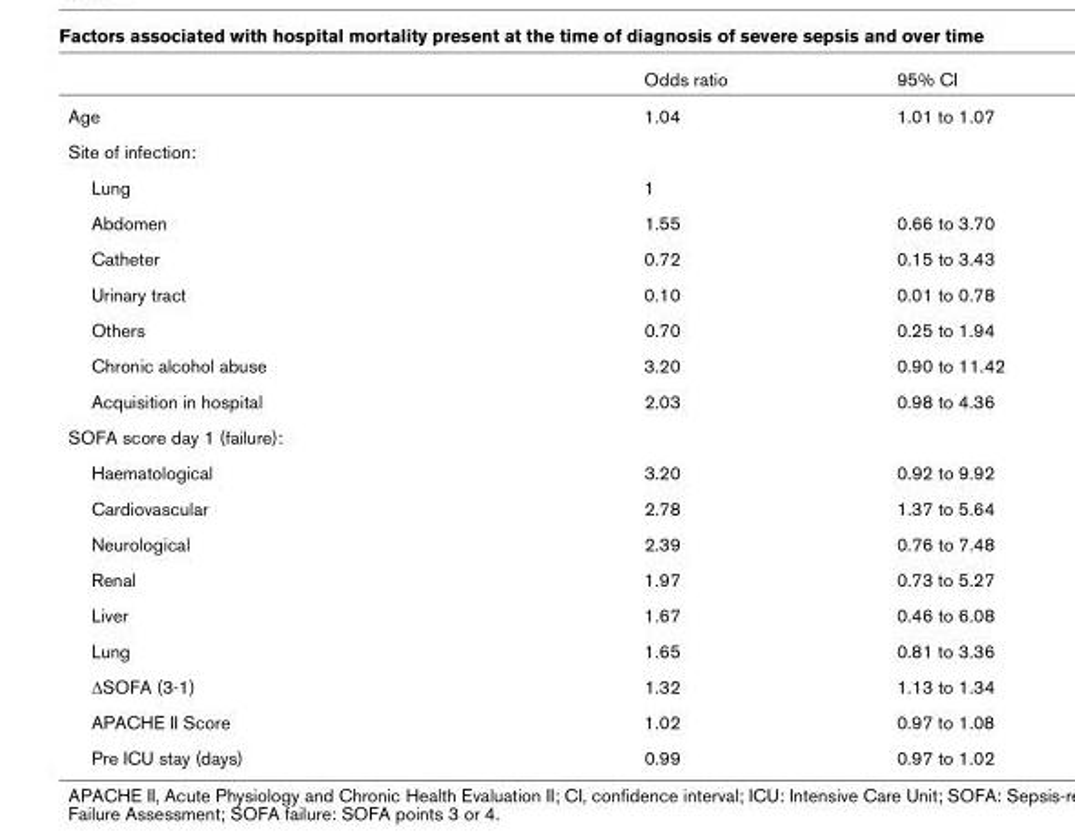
<table><thead><tr><td></td><td>Odds ratio</td><td>95% CI</td></tr></thead><tbody><tr><td>Age</td><td>1.04</td><td>1.01 to 1.07</td></tr><tr><td colspan="3">Site of infection:</td></tr><tr><td>Lung</td><td>1</td><td></td></tr><tr><td>Abdomen</td><td>1.55</td><td>0.66 to 3.70</td></tr><tr><td>Catheter</td><td>0.72</td><td>0.15 to 3.43</td></tr><tr><td>Urinary tract</td><td>0.10</td><td>0.01 to 0.78</td></tr><tr><td>Others</td><td>0.70</td><td>0.25 to 1.94</td></tr><tr><td>Chronic alcohol abuse</td><td>3.20</td><td>0.90 to 11.42</td></tr><tr><td>Acquisition in hospital</td><td>2.03</td><td>0.98 to 4.36</td></tr><tr><td colspan="3">SOFA score day 1 (failure):</td></tr><tr><td>Haematological</td><td>3.20</td><td>0.92 to 9.92</td></tr><tr><td>Cardiovascular</td><td>2.78</td><td>1.37 to 5.64</td></tr><tr><td>Neurological</td><td>2.39</td><td>0.76 to 7.48</td></tr><tr><td>Renal</td><td>1.97</td><td>0.73 to 5.27</td></tr><tr><td>Liver</td><td>1.67</td><td>0.46 to 6.08</td></tr><tr><td>Lung</td><td>1.65</td><td>0.81 to 3.36</td></tr><tr><td>ΔSOFA (3-1)</td><td>1.32</td><td>1.13 to 1.34</td></tr><tr><td>APACHE II Score</td><td>1.02</td><td>0.97 to 1.08</td></tr><tr><td>Pre ICU stay (days)</td><td>0.99</td><td>0.97 to 1.02</td></tr></tbody></table>